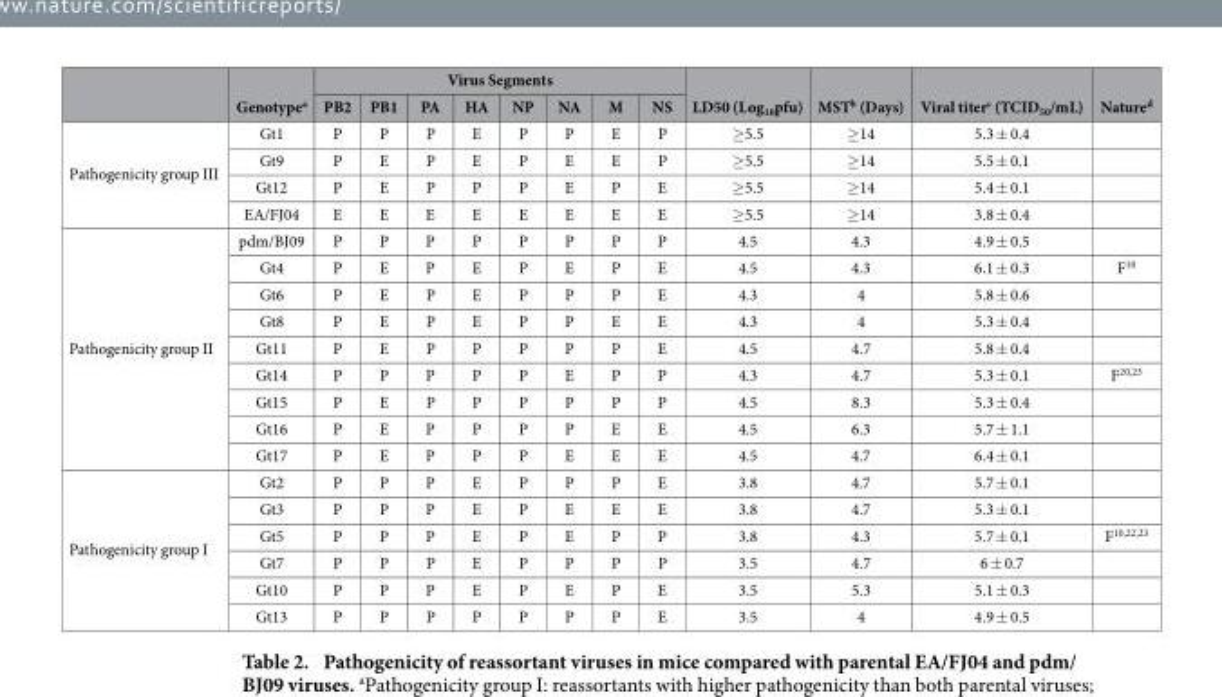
<table><thead><tr><td rowspan="2"></td><td rowspan="2">Genotype<sup>a</sup></td><td colspan="8">Virus Segments</td><td rowspan="2">LD50 (Log<sub>10</sub>pfu)</td><td rowspan="2">MST<sup>b</sup> (Days)</td><td rowspan="2">Viral titer<sup>c</sup> (TCID<sub>50</sub>/mL)</td><td rowspan="2">Nature<sup>d</sup></td></tr><tr><td>PB2</td><td>PB1</td><td>PA</td><td>HA</td><td>NP</td><td>NA</td><td>M</td><td>NS</td></tr></thead><tbody><tr><td rowspan="4">Pathogenicity group III</td><td>Gt1</td><td>P</td><td>P</td><td>P</td><td>E</td><td>P</td><td>P</td><td>E</td><td>P</td><td>≥ 5.5</td><td>≥ 14</td><td>5.3 ± 0.4</td><td></td></tr><tr><td>Gt9</td><td>P</td><td>E</td><td>P</td><td>E</td><td>P</td><td>E</td><td>E</td><td>P</td><td>≥ 5.5</td><td>≥ 14</td><td>5.5 ± 0.1</td><td></td></tr><tr><td>Gt12</td><td>P</td><td>E</td><td>P</td><td>P</td><td>P</td><td>E</td><td>P</td><td>E</td><td>≥ 5.5</td><td>≥ 14</td><td>5.4 ± 0.1</td><td></td></tr><tr><td>EA/FJ04</td><td>E</td><td>E</td><td>E</td><td>E</td><td>E</td><td>E</td><td>E</td><td>E</td><td>≥ 5.5</td><td>≥ 14</td><td>3.8 ± 0.4</td><td></td></tr><tr><td rowspan="9">Pathogenicity group II</td><td>pdm/BJ09</td><td>P</td><td>P</td><td>P</td><td>P</td><td>P</td><td>P</td><td>P</td><td>P</td><td>4.5</td><td>4.3</td><td>4.9 ± 0.5</td><td></td></tr><tr><td>Gt4</td><td>P</td><td>E</td><td>P</td><td>E</td><td>P</td><td>E</td><td>P</td><td>E</td><td>4.5</td><td>4.3</td><td>6.1 ± 0.3</td><td>F<sup>10</sup></td></tr><tr><td>Gt6</td><td>P</td><td>E</td><td>P</td><td>E</td><td>P</td><td>P</td><td>P</td><td>E</td><td>4.3</td><td>4</td><td>5.8 ± 0.6</td><td></td></tr><tr><td>Gt8</td><td>P</td><td>E</td><td>P</td><td>E</td><td>P</td><td>P</td><td>E</td><td>E</td><td>4.3</td><td>4</td><td>5.3 ± 0.4</td><td></td></tr><tr><td>Gt11</td><td>P</td><td>E</td><td>P</td><td>P</td><td>P</td><td>P</td><td>P</td><td>E</td><td>4.5</td><td>4.7</td><td>5.8 ± 0.4</td><td></td></tr><tr><td>Gt14</td><td>P</td><td>P</td><td>P</td><td>P</td><td>P</td><td>E</td><td>P</td><td>P</td><td>4.3</td><td>4.7</td><td>5.3 ± 0.1</td><td>F<sup>20,23</sup></td></tr><tr><td>Gt15</td><td>P</td><td>E</td><td>P</td><td>P</td><td>P</td><td>P</td><td>P</td><td>P</td><td>4.5</td><td>8.3</td><td>5.3 ± 0.4</td><td></td></tr><tr><td>Gt16</td><td>P</td><td>E</td><td>P</td><td>P</td><td>P</td><td>P</td><td>E</td><td>E</td><td>4.5</td><td>6.3</td><td>5.7 ± 1.1</td><td></td></tr><tr><td>Gt17</td><td>P</td><td>E</td><td>P</td><td>P</td><td>P</td><td>E</td><td>E</td><td>E</td><td>4.5</td><td>4.7</td><td>6.4 ± 0.1</td><td></td></tr><tr><td rowspan="6">Pathogenicity group I</td><td>Gt2</td><td>P</td><td>P</td><td>P</td><td>E</td><td>P</td><td>P</td><td>P</td><td>E</td><td>3.8</td><td>4.7</td><td>5.7 ± 0.1</td><td></td></tr><tr><td>Gt3</td><td>P</td><td>P</td><td>P</td><td>E</td><td>P</td><td>E</td><td>E</td><td>E</td><td>3.8</td><td>4.7</td><td>5.3 ± 0.1</td><td></td></tr><tr><td>Gt5</td><td>P</td><td>P</td><td>P</td><td>E</td><td>P</td><td>E</td><td>P</td><td>P</td><td>3.8</td><td>4.3</td><td>5.7 ± 0.1</td><td>F<sup>10,22,23</sup></td></tr><tr><td>Gt7</td><td>P</td><td>P</td><td>P</td><td>E</td><td>P</td><td>P</td><td>P</td><td>P</td><td>3.5</td><td>4.7</td><td>6 ± 0.7</td><td></td></tr><tr><td>Gt10</td><td>P</td><td>P</td><td>P</td><td>E</td><td>P</td><td>E</td><td>P</td><td>E</td><td>3.5</td><td>5.3</td><td>5.1 ± 0.3</td><td></td></tr><tr><td>Gt13</td><td>P</td><td>P</td><td>P</td><td>P</td><td>P</td><td>P</td><td>P</td><td>E</td><td>3.5</td><td>4</td><td>4.9 ± 0.5</td><td></td></tr></tbody></table>